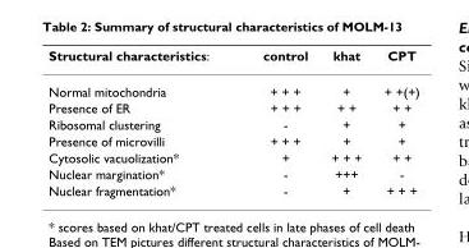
<table><thead><tr><td>Structural characteristics:</td><td>control</td><td>khat</td><td>CPT</td></tr></thead><tbody><tr><td>Normal mitochondria</td><td>+ + +</td><td>+</td><td>+ +(+)</td></tr><tr><td>Presence of ER</td><td>+ + +</td><td>+ +</td><td>+ +</td></tr><tr><td>Ribosomal clustering</td><td>-</td><td>+</td><td>+</td></tr><tr><td>Presence of microvilli</td><td>+ + +</td><td>+</td><td>+</td></tr><tr><td>Cytosolic vacuolization*</td><td>+</td><td>+ + +</td><td>+ +</td></tr><tr><td>Nuclear margination*</td><td>-</td><td>+++</td><td>-</td></tr><tr><td>Nuclear fragmentation*</td><td>-</td><td>+</td><td>+ + +</td></tr></tbody></table>